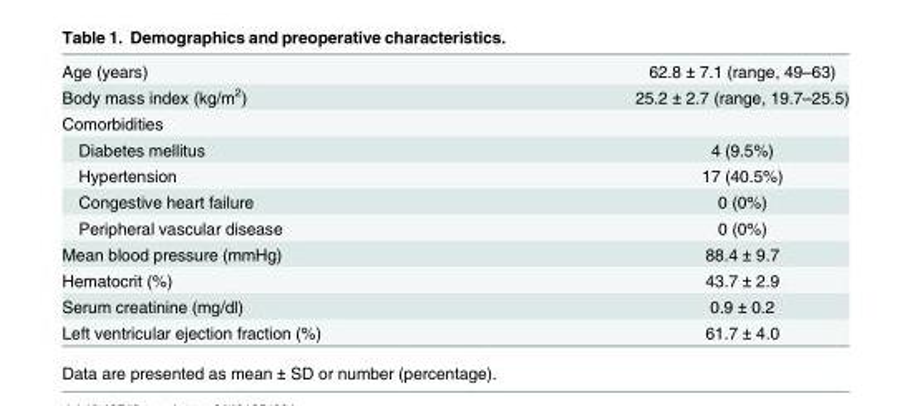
<table><tbody><tr><td>Age (years)</td><td>62.8 ± 7.1 (range, 49–63)</td></tr><tr><td>Body mass index (kg/m<sup>2</sup>)</td><td>25.2 ± 2.7 (range, 19.7–25.5)</td></tr><tr><td colspan="2">Comorbidities</td></tr><tr><td>Diabetes mellitus</td><td>4 (9.5%)</td></tr><tr><td>Hypertension</td><td>17 (40.5%)</td></tr><tr><td>Congestive heart failure</td><td>0 (0%)</td></tr><tr><td>Peripheral vascular disease</td><td>0 (0%)</td></tr><tr><td>Mean blood pressure (mmHg)</td><td>88.4 ± 9.7</td></tr><tr><td>Hematocrit (%)</td><td>43.7 ± 2.9</td></tr><tr><td>Serum creatinine (mg/dl)</td><td>0.9 ± 0.2</td></tr><tr><td>Left ventricular ejection fraction (%)</td><td>61.7 ± 4.0</td></tr></tbody></table>